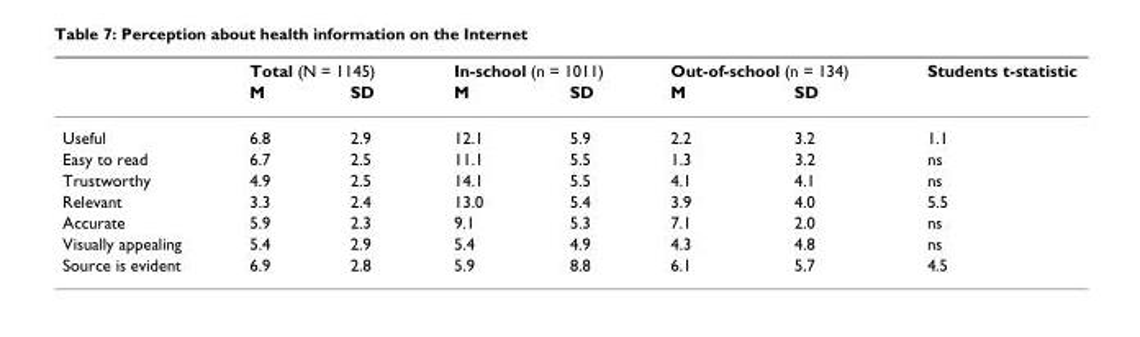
<table><thead><tr><td rowspan="2"></td><td colspan="2">Total (N = 1145)</td><td colspan="2">In-school (n = 1011)</td><td colspan="2">Out-of-school (n = 134)</td><td rowspan="2">Students t-statistic</td></tr><tr><td>M</td><td>SD</td><td>M</td><td>SD</td><td>M</td><td>SD</td></tr></thead><tbody><tr><td>Useful</td><td>6.8</td><td>2.9</td><td>12.1</td><td>5.9</td><td>2.2</td><td>3.2</td><td>1.1</td></tr><tr><td>Easy to read</td><td>6.7</td><td>2.5</td><td>11.1</td><td>5.5</td><td>1.3</td><td>3.2</td><td>ns</td></tr><tr><td>Trustworthy</td><td>4.9</td><td>2.5</td><td>14.1</td><td>5.5</td><td>4.1</td><td>4.1</td><td>ns</td></tr><tr><td>Relevant</td><td>3.3</td><td>2.4</td><td>13.0</td><td>5.4</td><td>3.9</td><td>4.0</td><td>5.5</td></tr><tr><td>Accurate</td><td>5.9</td><td>2.3</td><td>9.1</td><td>5.3</td><td>7.1</td><td>2.0</td><td>ns</td></tr><tr><td>Visually appealing</td><td>5.4</td><td>2.9</td><td>5.4</td><td>4.9</td><td>4.3</td><td>4.8</td><td>ns</td></tr><tr><td>Source is evident</td><td>6.9</td><td>2.8</td><td>5.9</td><td>8.8</td><td>6.1</td><td>5.7</td><td>4.5</td></tr></tbody></table>